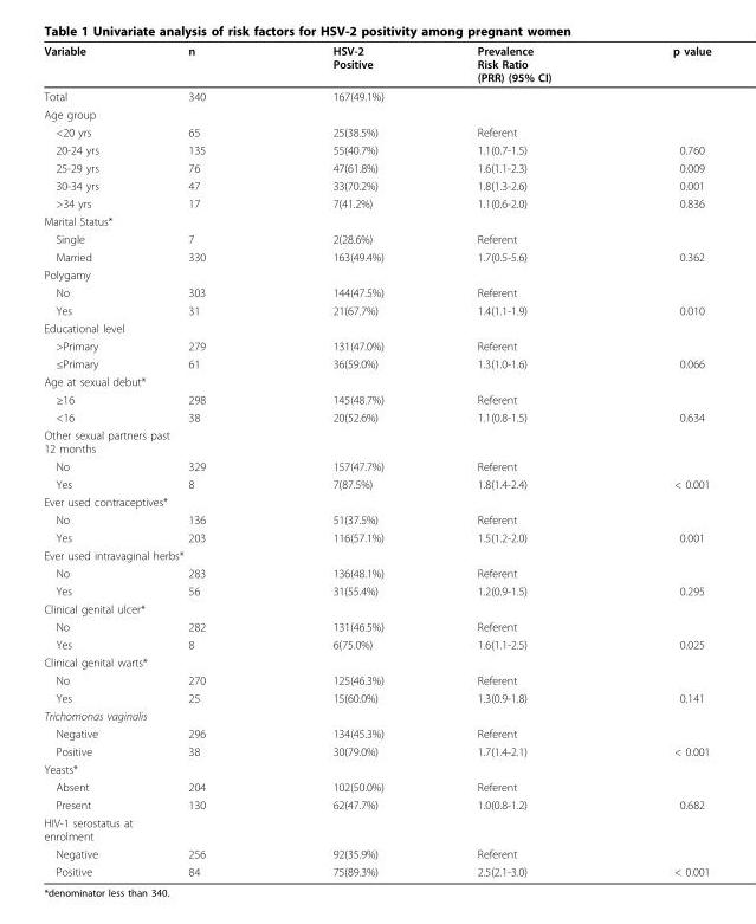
<table><thead><tr><td>Variable</td><td>n</td><td>HSV-2 Positive</td><td>Prevalence Risk Ratio (PRR) (95% CI)</td><td>p value</td></tr></thead><tbody><tr><td>Total</td><td>340</td><td>167(49.1%)</td><td></td><td></td></tr><tr><td colspan="5">Age group</td></tr><tr><td>&lt;20 yrs</td><td>65</td><td>25(38.5%)</td><td>Referent</td><td></td></tr><tr><td>20-24 yrs</td><td>135</td><td>55(40.7%)</td><td>1.1(0.7-1.5)</td><td>0.760</td></tr><tr><td>25-29 yrs</td><td>76</td><td>47(61.8%)</td><td>1.6(1.1-2.3)</td><td>0.009</td></tr><tr><td>30-34 yrs</td><td>47</td><td>33(70.2%)</td><td>1.8(1.3-2.6)</td><td>0.001</td></tr><tr><td>&gt;34 yrs</td><td>17</td><td>7(41.2%)</td><td>1.1(0.6-2.0)</td><td>0.836</td></tr><tr><td colspan="5">Marital Status*</td></tr><tr><td>Single</td><td>7</td><td>2(28.6%)</td><td>Referent</td><td></td></tr><tr><td>Married</td><td>330</td><td>163(49.4%)</td><td>1.7(0.5-5.6)</td><td>0.362</td></tr><tr><td colspan="5">Polygamy</td></tr><tr><td>No</td><td>303</td><td>144(47.5%)</td><td>Referent</td><td></td></tr><tr><td>Yes</td><td>31</td><td>21(67.7%)</td><td>1.4(1.1-1.9)</td><td>0.010</td></tr><tr><td colspan="5">Educational level</td></tr><tr><td>&gt;Primary</td><td>279</td><td>131(47.0%)</td><td>Referent</td><td></td></tr><tr><td>≤Primary</td><td>61</td><td>36(59.0%)</td><td>1.3(1.0-1.6)</td><td>0.066</td></tr><tr><td colspan="5">Age at sexual debut*</td></tr><tr><td>≥16</td><td>298</td><td>145(48.7%)</td><td>Referent</td><td></td></tr><tr><td>&lt;16</td><td>38</td><td>20(52.6%)</td><td>1.1(0.8-1.5)</td><td>0.634</td></tr><tr><td colspan="5">Other sexual partners past 12 months</td></tr><tr><td>No</td><td>329</td><td>157(47.7%)</td><td>Referent</td><td></td></tr><tr><td>Yes</td><td>8</td><td>7(87.5%)</td><td>1.8(1.4-2.4)</td><td>&lt; 0.001</td></tr><tr><td colspan="5">Ever used contraceptives*</td></tr><tr><td>No</td><td>136</td><td>51(37.5%)</td><td>Referent</td><td></td></tr><tr><td>Yes</td><td>203</td><td>116(57.1%)</td><td>1.5(1.2-2.0)</td><td>0.001</td></tr><tr><td colspan="5">Ever used intravaginal herbs*</td></tr><tr><td>No</td><td>283</td><td>136(48.1%)</td><td>Referent</td><td></td></tr><tr><td>Yes</td><td>56</td><td>31(55.4%)</td><td>1.2(0.9-1.5)</td><td>0.295</td></tr><tr><td colspan="5">Clinical genital ulcer*</td></tr><tr><td>No</td><td>282</td><td>131(46.5%)</td><td>Referent</td><td></td></tr><tr><td>Yes</td><td>8</td><td>6(75.0%)</td><td>1.6(1.1-2.5)</td><td>0.025</td></tr><tr><td colspan="5">Clinical genital warts*</td></tr><tr><td>No</td><td>270</td><td>125(46.3%)</td><td>Referent</td><td></td></tr><tr><td>Yes</td><td>25</td><td>15(60.0%)</td><td>1.3(0.9-1.8)</td><td>0.141</td></tr><tr><td colspan="5">Trichomonas vaginalis</td></tr><tr><td>Negative</td><td>296</td><td>134(45.3%)</td><td>Referent</td><td></td></tr><tr><td>Positive</td><td>38</td><td>30(79.0%)</td><td>1.7(1.4-2.1)</td><td>&lt; 0.001</td></tr><tr><td colspan="5">Yeasts*</td></tr><tr><td>Absent</td><td>204</td><td>102(50.0%)</td><td>Referent</td><td></td></tr><tr><td>Present</td><td>130</td><td>62(47.7%)</td><td>1.0(0.8-1.2)</td><td>0.682</td></tr><tr><td colspan="5">HIV-1 serostatus at enrolment</td></tr><tr><td>Negative</td><td>256</td><td>92(35.9%)</td><td>Referent</td><td></td></tr><tr><td>Positive</td><td>84</td><td>75(89.3%)</td><td>2.5(2.1-3.0)</td><td>&lt; 0.001</td></tr></tbody></table>